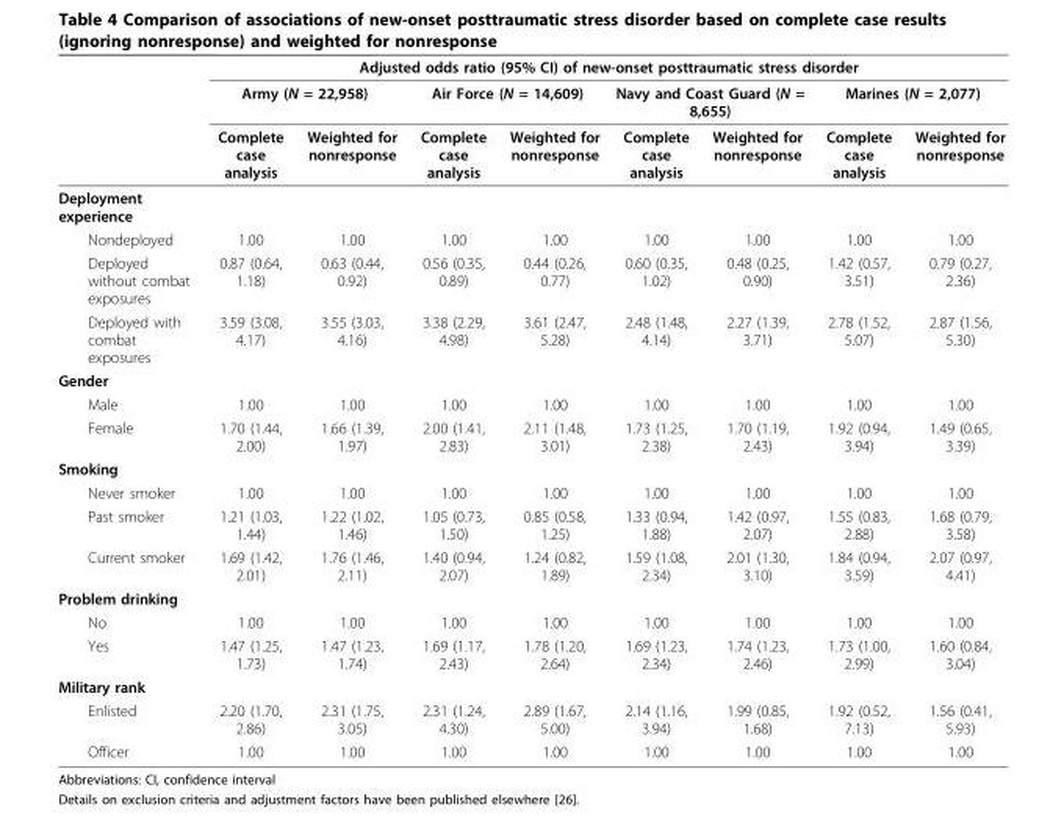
<table><thead><tr><td rowspan="3"></td><td colspan="8">Adjusted odds ratio (95% CI) of new-onset posttraumatic stress disorder</td></tr><tr><td colspan="2">Army (N = 22,958)</td><td colspan="2">Air Force (N = 14,609)</td><td colspan="2">Navy and Coast Guard (N = 8,655)</td><td colspan="2">Marines (N = 2,077)</td></tr><tr><td>Complete case analysis</td><td>Weighted for nonresponse</td><td>Complete case analysis</td><td>Weighted for nonresponse</td><td>Complete case analysis</td><td>Weighted for nonresponse</td><td>Complete case analysis</td><td>Weighted for nonresponse</td></tr></thead><tbody><tr><td colspan="9">Deployment experience</td></tr><tr><td>Nondeployed</td><td>1.00</td><td>1.00</td><td>1.00</td><td>1.00</td><td>1.00</td><td>1.00</td><td>1.00</td><td>1.00</td></tr><tr><td>Deployed without combat exposures</td><td>0.87 (0.64, 1.18)</td><td>0.63 (0.44, 0.92)</td><td>0.56 (0.35, 0.89)</td><td>0.44 (0.26, 0.77)</td><td>0.60 (0.35, 1.02)</td><td>0.48 (0.25, 0.90)</td><td>1.42 (0.57, 3.51)</td><td>0.79 (0.27, 2.36)</td></tr><tr><td>Deployed with combat exposures</td><td>3.59 (3.08, 4.17)</td><td>3.55 (3.03, 4.16)</td><td>3.38 (2.29, 4.98)</td><td>3.61 (2.47, 5.28)</td><td>2.48 (1.48, 4.14)</td><td>2.27 (1.39, 3.71)</td><td>2.78 (1.52, 5.07)</td><td>2.87 (1.56, 5.30)</td></tr><tr><td colspan="9">Gender</td></tr><tr><td>Male</td><td>1.00</td><td>1.00</td><td>1.00</td><td>1.00</td><td>1.00</td><td>1.00</td><td>1.00</td><td>1.00</td></tr><tr><td>Female</td><td>1.70 (1.44, 2.00)</td><td>1.66 (1.39, 1.97)</td><td>2.00 (1.41, 2.83)</td><td>2.11 (1.48, 3.01)</td><td>1.73 (1.25, 2.38)</td><td>1.70 (1.19, 2.43)</td><td>1.92 (0.94, 3.94)</td><td>1.49 (0.65, 3.39)</td></tr><tr><td colspan="9">Smoking</td></tr><tr><td>Never smoker</td><td>1.00</td><td>1.00</td><td>1.00</td><td>1.00</td><td>1.00</td><td>1.00</td><td>1.00</td><td>1.00</td></tr><tr><td>Past smoker</td><td>1.21 (1.03, 1.44)</td><td>1.22 (1.02, 1.46)</td><td>1.05 (0.73, 1.50)</td><td>0.85 (0.58, 1.25)</td><td>1.33 (0.94, 1.88)</td><td>1.42 (0.97, 2.07)</td><td>1.55 (0.83, 2.88)</td><td>1.68 (0.79, 3.58)</td></tr><tr><td>Current smoker</td><td>1.69 (1.42, 2.01)</td><td>1.76 (1.46, 2.11)</td><td>1.40 (0.94, 2.07)</td><td>1.24 (0.82, 1.89)</td><td>1.59 (1.08, 2.34)</td><td>2.01 (1.30, 3.10)</td><td>1.84 (0.94, 3.59)</td><td>2.07 (0.97, 4.41)</td></tr><tr><td colspan="9">Problem drinking</td></tr><tr><td>No</td><td>1.00</td><td>1.00</td><td>1.00</td><td>1.00</td><td>1.00</td><td>1.00</td><td>1.00</td><td>1.00</td></tr><tr><td>Yes</td><td>1.47 (1.25, 1.73)</td><td>1.47 (1.23, 1.74)</td><td>1.69 (1.17, 2.43)</td><td>1.78 (1.20, 2.64)</td><td>1.69 (1.23, 2.34)</td><td>1.74 (1.23, 2.46)</td><td>1.73 (1.00, 2.99)</td><td>1.60 (0.84, 3.04)</td></tr><tr><td colspan="9">Military rank</td></tr><tr><td>Enlisted</td><td>2.20 (1.70, 2.86)</td><td>2.31 (1.75, 3.05)</td><td>2.31 (1.24, 4.30)</td><td>2.89 (1.67, 5.00)</td><td>2.14 (1.16, 3.94)</td><td>1.99 (0.85, 1.68)</td><td>1.92 (0.52, 7.13)</td><td>1.56 (0.41, 5.93)</td></tr><tr><td>Officer</td><td>1.00</td><td>1.00</td><td>1.00</td><td>1.00</td><td>1.00</td><td>1.00</td><td>1.00</td><td>1.00</td></tr></tbody></table>